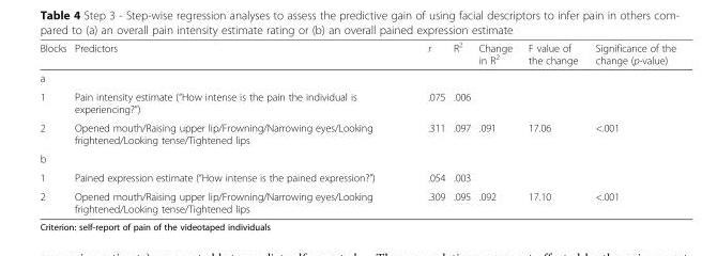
<table><thead><tr><td>Blocks</td><td>Predictors</td><td>r</td><td>R<sup>2</sup></td><td>Change in R<sup>2</sup></td><td>F value of the change</td><td>Significance of the change (p-value)</td></tr></thead><tbody><tr><td colspan="7">a</td></tr><tr><td>1</td><td>Pain intensity estimate (“How intense is the pain the individual is experiencing?”)</td><td>.075</td><td>.006</td><td></td><td></td><td></td></tr><tr><td>2</td><td>Opened mouth/Raising upper lip/Frowning/Narrowing eyes/Looking frightened/Looking tense/Tightened lips</td><td>.311</td><td>.097</td><td>.091</td><td>17.06</td><td>&lt;.001</td></tr><tr><td colspan="7">b</td></tr><tr><td>1</td><td>Pained expression estimate (“How intense is the pained expression?”)</td><td>.054</td><td>.003</td><td></td><td></td><td></td></tr><tr><td>2</td><td>Opened mouth/Raising upper lip/Frowning/Narrowing eyes/Looking frightened/Looking tense/Tightened lips</td><td>.309</td><td>.095</td><td>.092</td><td>17.10</td><td>&lt;.001</td></tr></tbody></table>